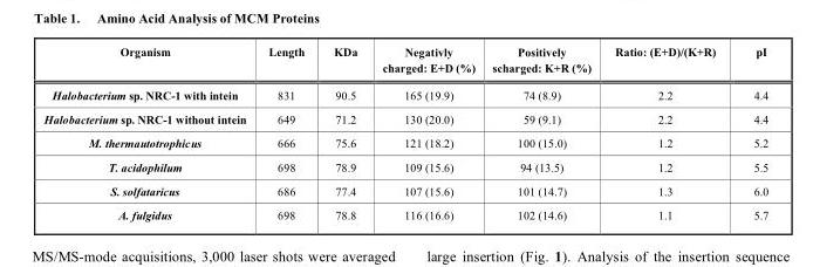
<table><thead><tr><td>Organism</td><td>Length</td><td>KDa</td><td>Negativly charged: E+D (%)</td><td>Positively scharged: K+R (%)</td><td>Ratio: (E+D)/(K+R)</td><td>pI</td></tr></thead><tbody><tr><td>Halobacterium sp. NRC-1 with intein</td><td>831</td><td>90.5</td><td>165 (19.9)</td><td>74 (8.9)</td><td>2.2</td><td>4.4</td></tr><tr><td>Halobacterium sp. NRC-1 without intein</td><td>649</td><td>71.2</td><td>130 (20.0)</td><td>59 (9.1)</td><td>2.2</td><td>4.4</td></tr><tr><td>M. thermautotrophicus</td><td>666</td><td>75.6</td><td>121 (18.2)</td><td>100 (15.0)</td><td>1.2</td><td>5.2</td></tr><tr><td>T. acidophilum</td><td>698</td><td>78.9</td><td>109 (15.6)</td><td>94 (13.5)</td><td>1.2</td><td>5.5</td></tr><tr><td>S. solfataricus</td><td>686</td><td>77.4</td><td>107 (15.6)</td><td>101 (14.7)</td><td>1.3</td><td>6.0</td></tr><tr><td>A. fulgidus</td><td>698</td><td>78.8</td><td>116 (16.6)</td><td>102 (14.6)</td><td>1.1</td><td>5.7</td></tr></tbody></table>